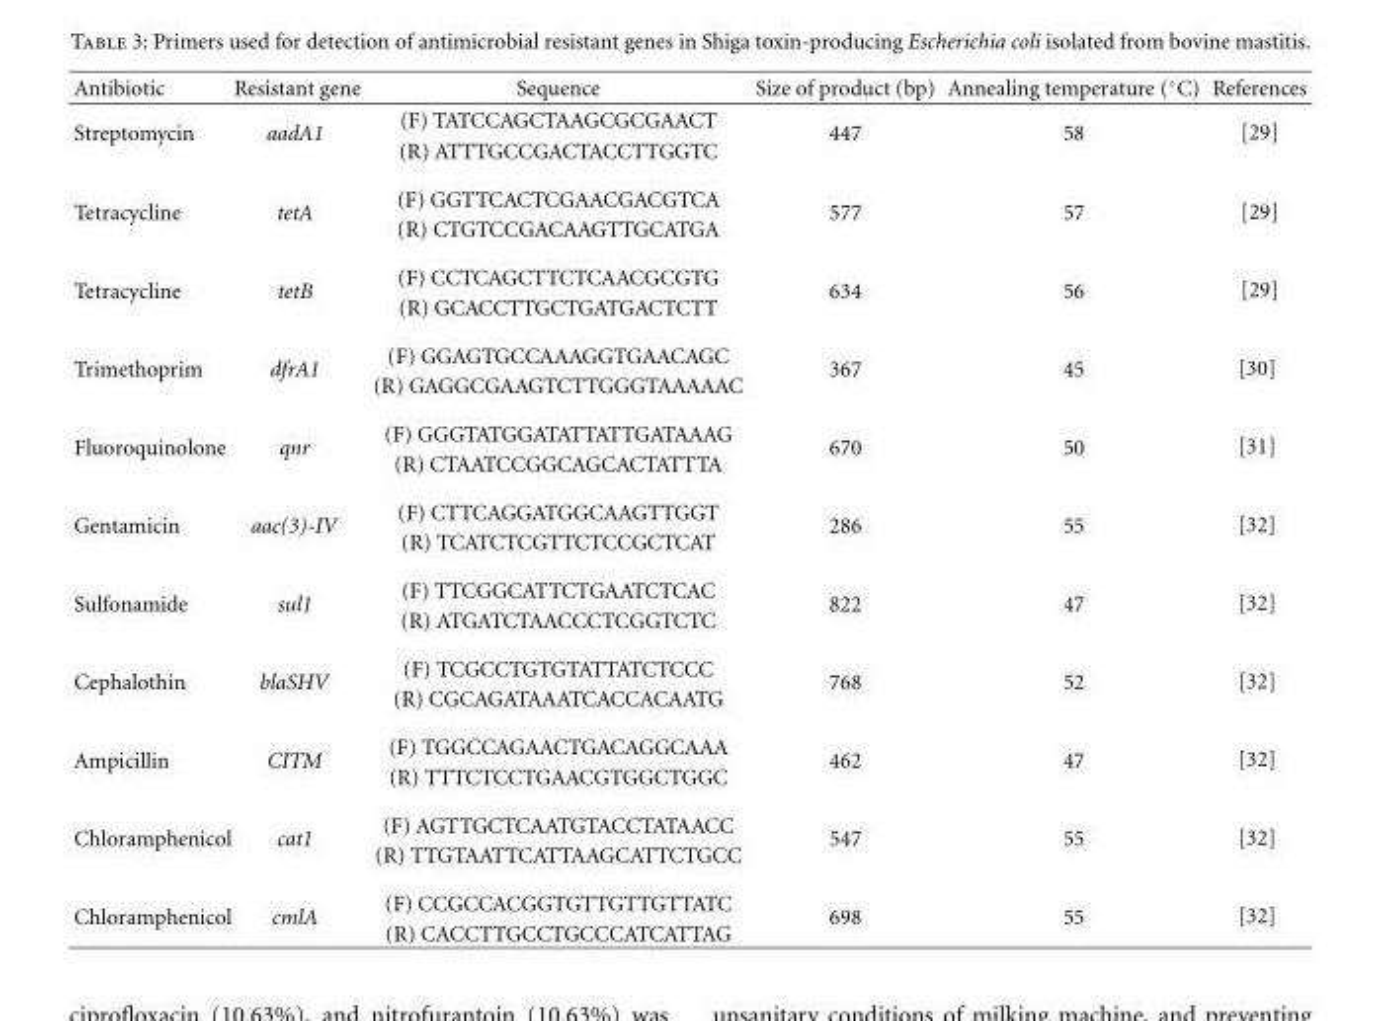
<table><thead><tr><td>Antibiotic</td><td>Resistant gene</td><td>Sequence</td><td>Size of product (bp)</td><td>Annealing temperature (◦C)</td><td>References</td></tr></thead><tbody><tr><td rowspan="2">Streptomycin</td><td rowspan="2">aadA1</td><td>(F) TATCCAGCTAAGCGCGAACT</td><td rowspan="2">447</td><td rowspan="2">58</td><td rowspan="2">[29]</td></tr><tr><td>(R) ATTTGCCGACTACCTTGGTC</td></tr><tr><td rowspan="2">Tetracycline</td><td rowspan="2">tetA</td><td>(F) GGTTCACTCGAACGACGTCA</td><td rowspan="2">577</td><td rowspan="2">57</td><td rowspan="2">[29]</td></tr><tr><td>(R) CTGTCCGACAAGTTGCATGA</td></tr><tr><td rowspan="2">Tetracycline</td><td rowspan="2">tetB</td><td>(F) CCTCAGCTTCTCAACGCGTG</td><td rowspan="2">634</td><td rowspan="2">56</td><td rowspan="2">[29]</td></tr><tr><td>(R) GCACCTTGCTGATGACTCTT</td></tr><tr><td rowspan="2">Trimethoprim</td><td rowspan="2">dfrA1</td><td>(F) GGAGTGCCAAAGGTGAACAGC</td><td rowspan="2">367</td><td rowspan="2">45</td><td rowspan="2">[30]</td></tr><tr><td>(R) GAGGCGAAGTCTTGGGTAAAAAC</td></tr><tr><td rowspan="2">Fluoroquinolone</td><td rowspan="2">qnr</td><td>(F) GGGTATGGATATTATTGATAAAG</td><td rowspan="2">670</td><td rowspan="2">50</td><td rowspan="2">[31]</td></tr><tr><td>(R) CTAATCCGGCAGCACTATTTA</td></tr><tr><td rowspan="2">Gentamicin</td><td rowspan="2">aac(3)-IV</td><td>(F) CTTCAGGATGGCAAGTTGGT</td><td rowspan="2">286</td><td rowspan="2">55</td><td rowspan="2">[32]</td></tr><tr><td>(R) TCATCTCGTTCTCCGCTCAT</td></tr><tr><td rowspan="2">Sulfonamide</td><td rowspan="2">sul1</td><td>(F) TTCGGCATTCTGAATCTCAC</td><td rowspan="2">822</td><td rowspan="2">47</td><td rowspan="2">[32]</td></tr><tr><td>(R) ATGATCTAACCCTCGGTCTC</td></tr><tr><td rowspan="2">Cephalothin</td><td rowspan="2">blaSHV</td><td>(F) TCGCCTGTGTATTATCTCCC</td><td rowspan="2">768</td><td rowspan="2">52</td><td rowspan="2">[32]</td></tr><tr><td>(R) CGCAGATAAATCACCACAATG</td></tr><tr><td rowspan="2">Ampicillin</td><td rowspan="2">CITM</td><td>(F) TGGCCAGAACTGACAGGCAAA</td><td rowspan="2">462</td><td rowspan="2">47</td><td rowspan="2">[32]</td></tr><tr><td>(R) TTTCTCCTGAACGTGGCTGGC</td></tr><tr><td rowspan="2">Chloramphenicol</td><td rowspan="2">cat1</td><td>(F) AGTTGCTCAATGTACCTATAACC</td><td rowspan="2">547</td><td rowspan="2">55</td><td rowspan="2">[32]</td></tr><tr><td>(R) TTGTAATTCATTAAGCATTCTGCC</td></tr><tr><td rowspan="2">Chloramphenicol</td><td rowspan="2">cmlA</td><td>(F) CCGCCACGGTGTTGTTGTTATC</td><td rowspan="2">698</td><td rowspan="2">55</td><td rowspan="2">[32]</td></tr><tr><td>(R) CACCTTGCCTGCCCATCATTAG</td></tr></tbody></table>